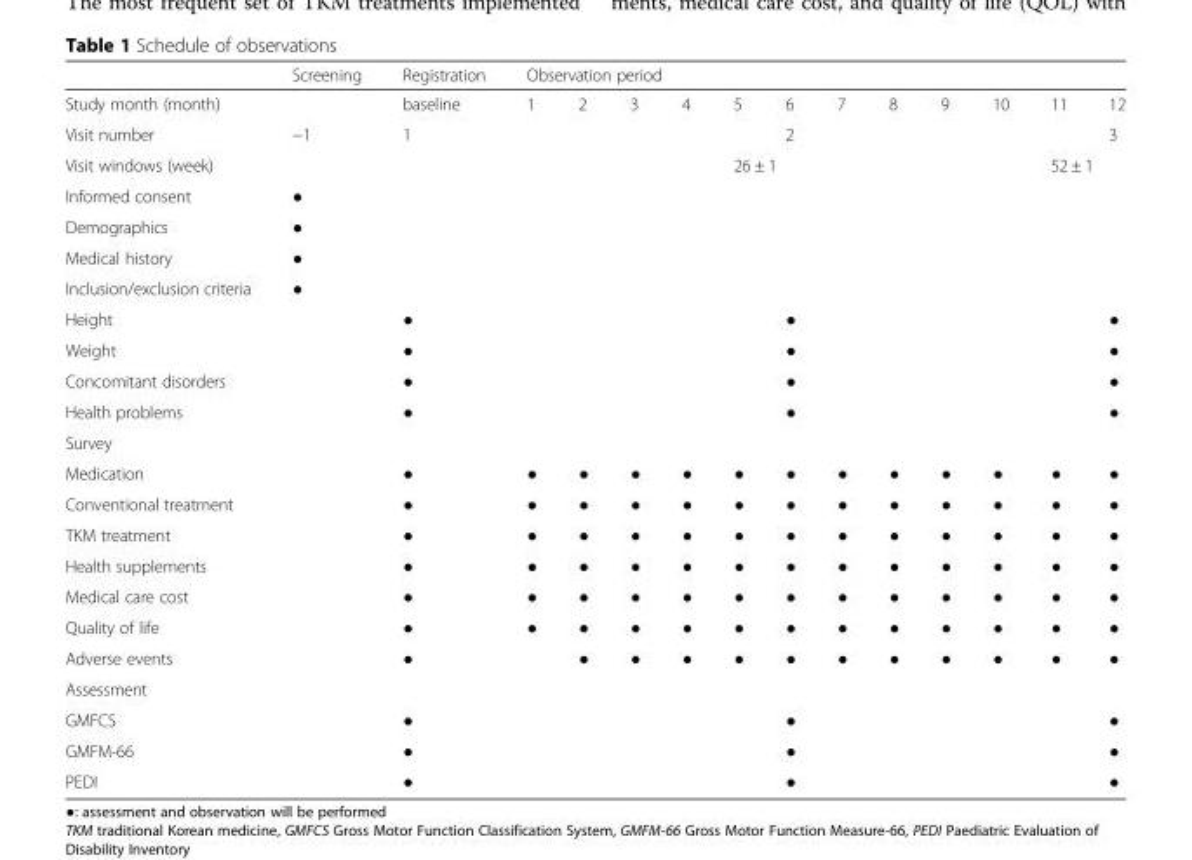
<table><thead><tr><td rowspan="2">Study month (month)</td><td rowspan="2">Screening</td><td rowspan="2">Registration baseline</td><td colspan="12">Observation period</td></tr><tr><td>1</td><td>2</td><td>3</td><td>4</td><td>5</td><td>6</td><td>7</td><td>8</td><td>9</td><td>10</td><td>11</td><td>12</td></tr></thead><tbody><tr><td>Visit number</td><td rowspan="2">−1</td><td rowspan="2">1</td><td rowspan="2"></td><td rowspan="2"></td><td rowspan="2"></td><td rowspan="2"></td><td></td><td>2</td><td></td><td rowspan="2"></td><td rowspan="2"></td><td rowspan="2"></td><td></td><td>3</td></tr><tr><td>Visit windows (week)</td><td colspan="3">26 ± 1</td><td colspan="2">52 ± 1</td></tr><tr><td>Informed consent</td><td>●</td><td></td><td></td><td></td><td></td><td></td><td></td><td></td><td></td><td></td><td></td><td></td><td></td><td></td></tr><tr><td>Demographics</td><td>●</td><td></td><td></td><td></td><td></td><td></td><td></td><td></td><td></td><td></td><td></td><td></td><td></td><td></td></tr><tr><td>Medical history</td><td>●</td><td></td><td></td><td></td><td></td><td></td><td></td><td></td><td></td><td></td><td></td><td></td><td></td><td></td></tr><tr><td>Inclusion/exclusion criteria</td><td>●</td><td></td><td></td><td></td><td></td><td></td><td></td><td></td><td></td><td></td><td></td><td></td><td></td><td></td></tr><tr><td>Height</td><td></td><td>●</td><td></td><td></td><td></td><td></td><td></td><td>●</td><td></td><td></td><td></td><td></td><td></td><td>●</td></tr><tr><td>Weight</td><td></td><td>●</td><td></td><td></td><td></td><td></td><td></td><td>●</td><td></td><td></td><td></td><td></td><td></td><td>●</td></tr><tr><td>Concomitant disorders</td><td></td><td>●</td><td></td><td></td><td></td><td></td><td></td><td>●</td><td></td><td></td><td></td><td></td><td></td><td>●</td></tr><tr><td>Health problems</td><td></td><td>●</td><td></td><td></td><td></td><td></td><td></td><td>●</td><td></td><td></td><td></td><td></td><td></td><td>●</td></tr><tr><td colspan="15">Survey</td></tr><tr><td>Medication</td><td></td><td>●</td><td>●</td><td>●</td><td>●</td><td>●</td><td>●</td><td>●</td><td>●</td><td>●</td><td>●</td><td>●</td><td>●</td><td>●</td></tr><tr><td>Conventional treatment</td><td></td><td>●</td><td>●</td><td>●</td><td>●</td><td>●</td><td>●</td><td>●</td><td>●</td><td>●</td><td>●</td><td>●</td><td>●</td><td>●</td></tr><tr><td>TKM treatment</td><td></td><td>●</td><td>●</td><td>●</td><td>●</td><td>●</td><td>●</td><td>●</td><td>●</td><td>●</td><td>●</td><td>●</td><td>●</td><td>●</td></tr><tr><td>Health supplements</td><td></td><td>●</td><td>●</td><td>●</td><td>●</td><td>●</td><td>●</td><td>●</td><td>●</td><td>●</td><td>●</td><td>●</td><td>●</td><td>●</td></tr><tr><td>Medical care cost</td><td></td><td>●</td><td>●</td><td>●</td><td>●</td><td>●</td><td>●</td><td>●</td><td>●</td><td>●</td><td>●</td><td>●</td><td>●</td><td>●</td></tr><tr><td>Quality of life</td><td></td><td>●</td><td>●</td><td>●</td><td>●</td><td>●</td><td>●</td><td>●</td><td>●</td><td>●</td><td>●</td><td>●</td><td>●</td><td>●</td></tr><tr><td>Adverse events</td><td></td><td>●</td><td></td><td>●</td><td>●</td><td>●</td><td>●</td><td>●</td><td>●</td><td>●</td><td>●</td><td>●</td><td>●</td><td>●</td></tr><tr><td colspan="15">Assessment</td></tr><tr><td>GMFCS</td><td></td><td>●</td><td></td><td></td><td></td><td></td><td></td><td>●</td><td></td><td></td><td></td><td></td><td></td><td>●</td></tr><tr><td>GMFM-66</td><td></td><td>●</td><td></td><td></td><td></td><td></td><td></td><td>●</td><td></td><td></td><td></td><td></td><td></td><td>●</td></tr><tr><td>PEDI</td><td></td><td>●</td><td></td><td></td><td></td><td></td><td></td><td>●</td><td></td><td></td><td></td><td></td><td></td><td>●</td></tr></tbody></table>